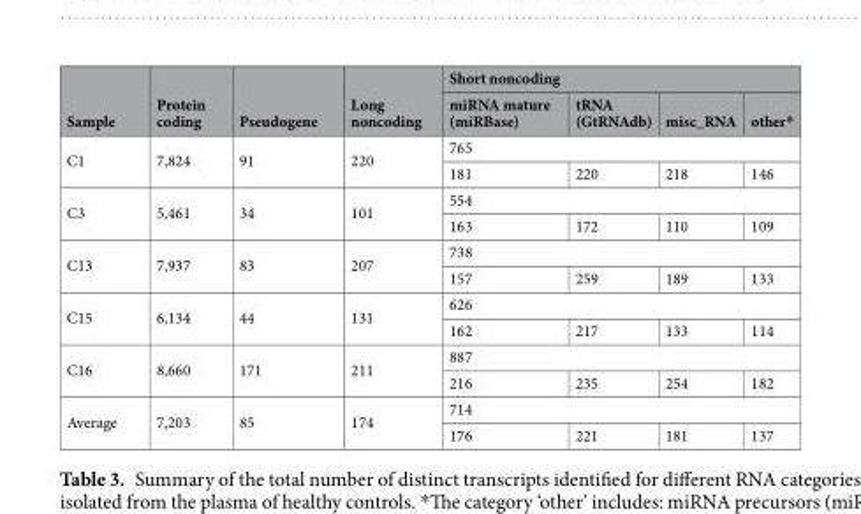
<table><thead><tr><td rowspan="2">Sample</td><td rowspan="2">Protein coding</td><td rowspan="2">Pseudogene</td><td rowspan="2">Long noncoding</td><td colspan="4">Short noncoding</td></tr><tr><td>miRNA mature (miRBase)</td><td>tRNA (GtRNAdb)</td><td>misc_RNA</td><td>other*</td></tr></thead><tbody><tr><td rowspan="2">C1</td><td rowspan="2">7,824</td><td rowspan="2">91</td><td rowspan="2">220</td><td colspan="4">765</td></tr><tr><td>181</td><td>220</td><td>218</td><td>146</td></tr><tr><td rowspan="2">C3</td><td rowspan="2">5,461</td><td rowspan="2">34</td><td rowspan="2">101</td><td colspan="4">554</td></tr><tr><td>163</td><td>172</td><td>110</td><td>109</td></tr><tr><td rowspan="2">C13</td><td rowspan="2">7,937</td><td rowspan="2">83</td><td rowspan="2">207</td><td colspan="4">738</td></tr><tr><td>157</td><td>259</td><td>189</td><td>133</td></tr><tr><td rowspan="2">C15</td><td rowspan="2">6,134</td><td rowspan="2">44</td><td rowspan="2">131</td><td colspan="4">626</td></tr><tr><td>162</td><td>217</td><td>133</td><td>114</td></tr><tr><td rowspan="2">C16</td><td rowspan="2">8,660</td><td rowspan="2">171</td><td rowspan="2">211</td><td colspan="4">887</td></tr><tr><td>216</td><td>235</td><td>254</td><td>182</td></tr><tr><td rowspan="2">Average</td><td rowspan="2">7,203</td><td rowspan="2">85</td><td rowspan="2">174</td><td colspan="4">714</td></tr><tr><td>176</td><td>221</td><td>181</td><td>137</td></tr></tbody></table>